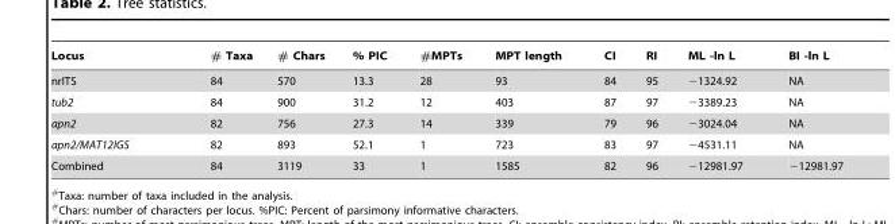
<table><thead><tr><td>Locus</td><td># Taxa</td><td># Chars</td><td>% PIC</td><td>#MPTs</td><td>MPT length</td><td>CI</td><td>RI</td><td>ML -ln L</td><td>BI -ln L</td></tr></thead><tbody><tr><td>nrITS</td><td>84</td><td>570</td><td>13.3</td><td>28</td><td>93</td><td>84</td><td>95</td><td>−1324.92</td><td>NA</td></tr><tr><td>tub2</td><td>84</td><td>900</td><td>31.2</td><td>12</td><td>403</td><td>87</td><td>97</td><td>−3389.23</td><td>NA</td></tr><tr><td>apn2</td><td>82</td><td>756</td><td>27.3</td><td>14</td><td>339</td><td>79</td><td>96</td><td>−3024.04</td><td>NA</td></tr><tr><td>apn2/MAT12IGS</td><td>82</td><td>893</td><td>52.1</td><td>1</td><td>723</td><td>83</td><td>97</td><td>−4531.11</td><td>NA</td></tr><tr><td>Combined</td><td>84</td><td>3119</td><td>33</td><td>1</td><td>1585</td><td>82</td><td>96</td><td>−12981.97</td><td>−12981.97</td></tr></tbody></table>